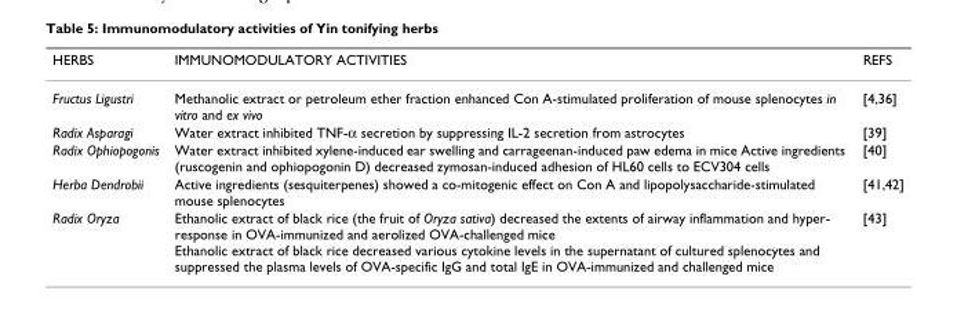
<table><thead><tr><td>HERBS</td><td>IMMUNOMODULATORY ACTIVITIES</td><td>REFS</td></tr></thead><tbody><tr><td>Fructus Ligustri</td><td>Methanolic extract or petroleum ether fraction enhanced Con A-stimulated proliferation of mouse splenocytes in vitro and ex vivo</td><td>[4,36]</td></tr><tr><td>Radix Asparagi</td><td>Water extract inhibited TNF-α secretion by suppressing IL-2 secretion from astrocytes</td><td>[39]</td></tr><tr><td>Radix Ophiopogonis</td><td>Water extract inhibited xylene-induced ear swelling and carrageenan-induced paw edema in mice Active ingredients (ruscogenin and ophiopogonin D) decreased zymosan-induced adhesion of HL60 cells to ECV304 cells</td><td>[40]</td></tr><tr><td>Herba Dendrobii</td><td>Active ingredients (sesquiterpenes) showed a co-mitogenic effect on Con A and lipopolysaccharide-stimulated mouse splenocytes</td><td>[41,42]</td></tr><tr><td>Radix Oryza</td><td>Ethanolic extract of black rice (the fruit of Oryza sativa) decreased the extents of airway inflammation and hyper- response in OVA-immunized and aerolized OVA-challenged mice Ethanolic extract of black rice decreased various cytokine levels in the supernatant of cultured splenocytes and suppressed the plasma levels of OVA-specific IgG and total IgE in OVA-immunized and challenged mice</td><td>[43]</td></tr></tbody></table>